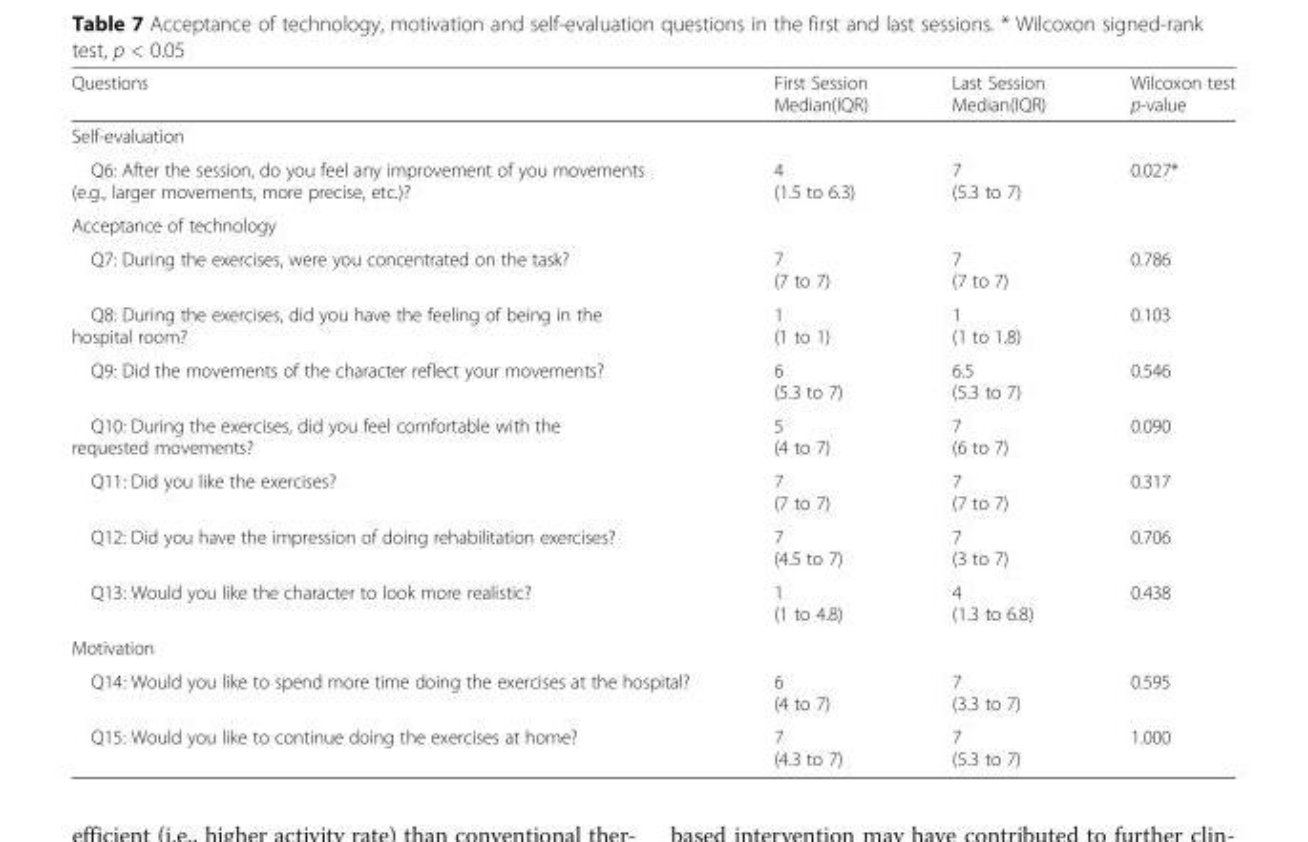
<table><thead><tr><td>Questions</td><td>First Session Median(IQR)</td><td>Last Session Median(IQR)</td><td>Wilcoxon test p-value</td></tr></thead><tbody><tr><td colspan="4">Self-evaluation</td></tr><tr><td>Q6: After the session, do you feel any improvement of you movements (e.g., larger movements, more precise, etc.)?</td><td>4 (1.5 to 6.3)</td><td>7 (5.3 to 7)</td><td>0.027*</td></tr><tr><td colspan="4">Acceptance of technology</td></tr><tr><td>Q7: During the exercises, were you concentrated on the task?</td><td>7 (7 to 7)</td><td>7 (7 to 7)</td><td>0.786</td></tr><tr><td>Q8: During the exercises, did you have the feeling of being in the hospital room?</td><td>1 (1 to 1)</td><td>1 (1 to 1.8)</td><td>0.103</td></tr><tr><td>Q9: Did the movements of the character reflect your movements?</td><td>6 (5.3 to 7)</td><td>6.5 (5.3 to 7)</td><td>0.546</td></tr><tr><td>Q10: During the exercises, did you feel comfortable with the requested movements?</td><td>5 (4 to 7)</td><td>7 (6 to 7)</td><td>0.090</td></tr><tr><td>Q11: Did you like the exercises?</td><td>7 (7 to 7)</td><td>7 (7 to 7)</td><td>0.317</td></tr><tr><td>Q12: Did you have the impression of doing rehabilitation exercises?</td><td>7 (4.5 to 7)</td><td>7 (3 to 7)</td><td>0.706</td></tr><tr><td>Q13: Would you like the character to look more realistic?</td><td>1 (1 to 4.8)</td><td>4 (1.3 to 6.8)</td><td>0.438</td></tr><tr><td colspan="4">Motivation</td></tr><tr><td>Q14: Would you like to spend more time doing the exercises at the hospital?</td><td>6 (4 to 7)</td><td>7 (3.3 to 7)</td><td>0.595</td></tr><tr><td>Q15: Would you like to continue doing the exercises at home?</td><td>7 (4.3 to 7)</td><td>7 (5.3 to 7)</td><td>1.000</td></tr></tbody></table>